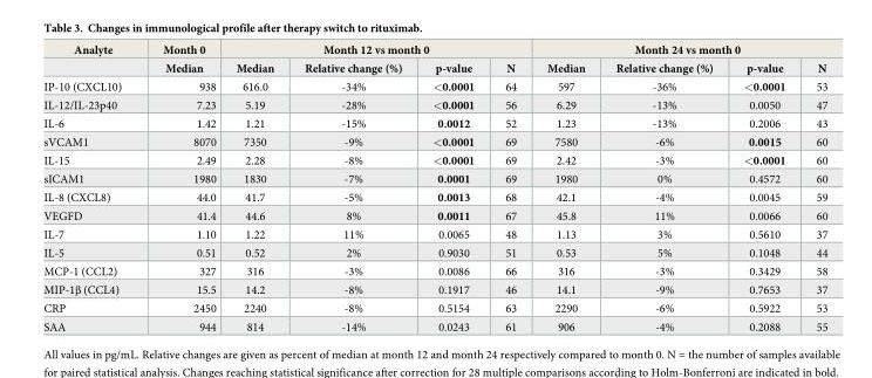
<table><thead><tr><td rowspan="2">Analyte</td><td rowspan="2">Month 0 Median</td><td colspan="4">Month 12 vs month 0</td><td colspan="4">Month 24 vs month 0</td></tr><tr><td>Median</td><td>Relative change (%)</td><td>p-value</td><td>N</td><td>Median</td><td>Relative change (%)</td><td>p-value</td><td>N</td></tr></thead><tbody><tr><td>IP-10 (CXCL10)</td><td>938</td><td>616.0</td><td>-34%</td><td>&lt;0.0001</td><td>64</td><td>597</td><td>-36%</td><td>&lt;0.0001</td><td>53</td></tr><tr><td>IL-12/IL-23p40</td><td>7.23</td><td>5.19</td><td>-28%</td><td>&lt;0.0001</td><td>56</td><td>6.29</td><td>-13%</td><td>0.0050</td><td>47</td></tr><tr><td>IL-6</td><td>1.42</td><td>1.21</td><td>-15%</td><td>0.0012</td><td>52</td><td>1.23</td><td>-13%</td><td>0.2006</td><td>43</td></tr><tr><td>sVCAM1</td><td>8070</td><td>7350</td><td>-9%</td><td>&lt;0.0001</td><td>69</td><td>7580</td><td>-6%</td><td>0.0015</td><td>60</td></tr><tr><td>IL-15</td><td>2.49</td><td>2.28</td><td>-8%</td><td>&lt;0.0001</td><td>69</td><td>2.42</td><td>-3%</td><td>&lt;0.0001</td><td>60</td></tr><tr><td>sICAM1</td><td>1980</td><td>1830</td><td>-7%</td><td>0.0001</td><td>69</td><td>1980</td><td>0%</td><td>0.4572</td><td>60</td></tr><tr><td>IL-8 (CXCL8)</td><td>44.0</td><td>41.7</td><td>-5%</td><td>0.0013</td><td>68</td><td>42.1</td><td>-4%</td><td>0.0045</td><td>59</td></tr><tr><td>VEGFD</td><td>41.4</td><td>44.6</td><td>8%</td><td>0.0011</td><td>67</td><td>45.8</td><td>11%</td><td>0.0066</td><td>60</td></tr><tr><td>IL-7</td><td>1.10</td><td>1.22</td><td>11%</td><td>0.0065</td><td>48</td><td>1.13</td><td>3%</td><td>0.5610</td><td>37</td></tr><tr><td>IL-5</td><td>0.51</td><td>0.52</td><td>2%</td><td>0.9030</td><td>51</td><td>0.53</td><td>5%</td><td>0.1048</td><td>44</td></tr><tr><td>MCP-1 (CCL2)</td><td>327</td><td>316</td><td>-3%</td><td>0.0086</td><td>66</td><td>316</td><td>-3%</td><td>0.3429</td><td>58</td></tr><tr><td>MIP-1β (CCL4)</td><td>15.5</td><td>14.2</td><td>-8%</td><td>0.1917</td><td>46</td><td>14.1</td><td>-9%</td><td>0.7653</td><td>37</td></tr><tr><td>CRP</td><td>2450</td><td>2240</td><td>-8%</td><td>0.5154</td><td>63</td><td>2290</td><td>-6%</td><td>0.5922</td><td>53</td></tr><tr><td>SAA</td><td>944</td><td>814</td><td>-14%</td><td>0.0243</td><td>61</td><td>906</td><td>-4%</td><td>0.2088</td><td>55</td></tr></tbody></table>